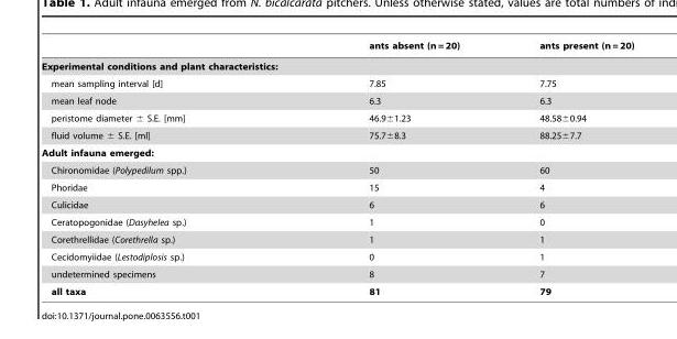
<table><thead><tr><td></td><td>ants absent (n = 20)</td><td>ants present (n = 20)</td></tr></thead><tbody><tr><td colspan="3">Experimental conditions and plant characteristics:</td></tr><tr><td>mean sampling interval [d]</td><td>7.85</td><td>7.75</td></tr><tr><td>mean leaf node</td><td>6.3</td><td>6.3</td></tr><tr><td>peristome diameter ± S.E. [mm]</td><td>46.9±1.23</td><td>48.58±0.94</td></tr><tr><td>fluid volume ± S.E. [ml]</td><td>75.7±8.3</td><td>88.25±7.7</td></tr><tr><td colspan="3">Adult infauna emerged:</td></tr><tr><td>Chironomidae (Polypedilum spp.)</td><td>50</td><td>60</td></tr><tr><td>Phoridae</td><td>15</td><td>4</td></tr><tr><td>Culicidae</td><td>6</td><td>6</td></tr><tr><td>Ceratopogonidae (Dasyhelea sp.)</td><td>1</td><td>0</td></tr><tr><td>Corethrellidae (Corethrella sp.)</td><td>1</td><td>1</td></tr><tr><td>Cecidomyiidae (Lestodiplosis sp.)</td><td>0</td><td>1</td></tr><tr><td>undetermined specimens</td><td>8</td><td>7</td></tr><tr><td>all taxa</td><td>81</td><td>79</td></tr></tbody></table>